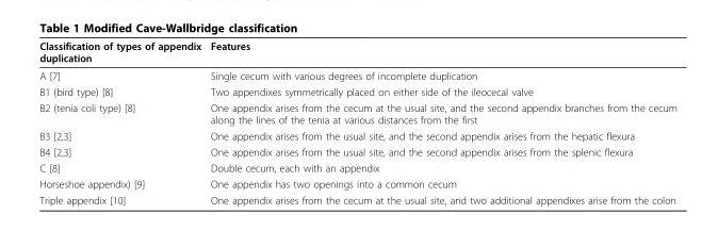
<table><thead><tr><td>Classification of types of appendix duplication</td><td>Features</td></tr></thead><tbody><tr><td>A [7]</td><td>Single cecum with various degrees of incomplete duplication</td></tr><tr><td>B1 (bird type) [8]</td><td>Two appendixes symmetrically placed on either side of the ileocecal valve</td></tr><tr><td>B2 (tenia coli type) [8]</td><td>One appendix arises from the cecum at the usual site, and the second appendix branches from the cecum along the lines of the tenia at various distances from the first</td></tr><tr><td>B3 [2,3]</td><td>One appendix arises from the usual site, and the second appendix arises from the hepatic flexura</td></tr><tr><td>B4 [2,3]</td><td>One appendix arises from the usual site, and the second appendix arises from the splenic flexura</td></tr><tr><td>C [8]</td><td>Double cecum, each with an appendix</td></tr><tr><td>Horseshoe appendix) [9]</td><td>One appendix has two openings into a common cecum</td></tr><tr><td>Triple appendix [10]</td><td>One appendix arises from the cecum at the usual site, and two additional appendixes arise from the colon</td></tr></tbody></table>